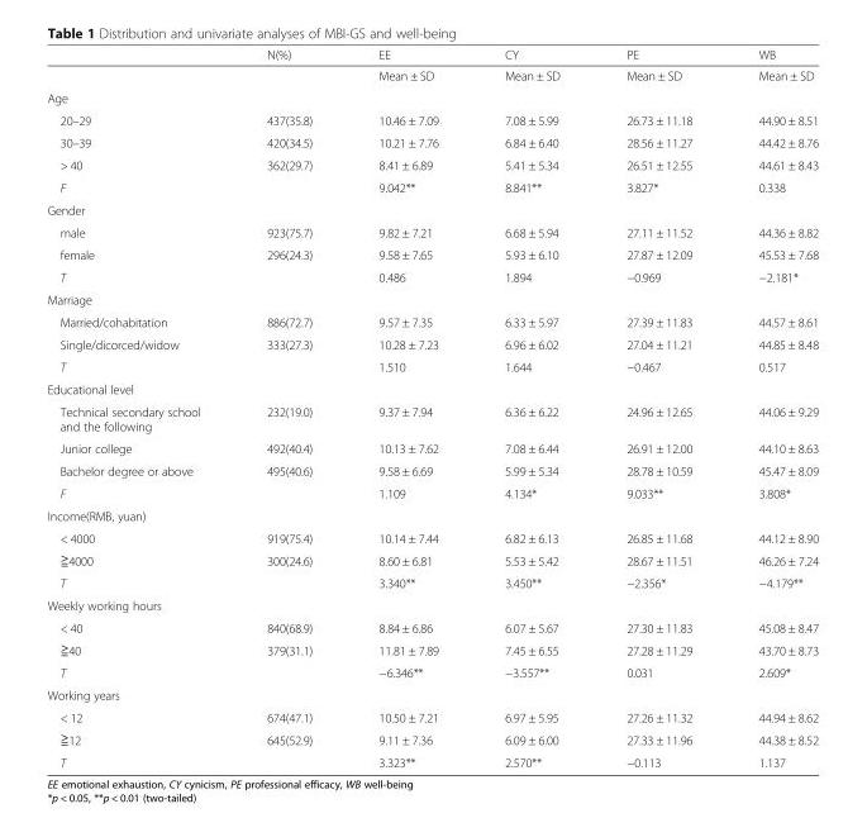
<table><thead><tr><td></td><td>N(%)</td><td>EE</td><td>CY</td><td>PE</td><td>WB</td></tr></thead><tbody><tr><td></td><td></td><td>Mean ± SD</td><td>Mean ± SD</td><td>Mean ± SD</td><td>Mean ± SD</td></tr><tr><td colspan="6">Age</td></tr><tr><td>20–29</td><td>437(35.8)</td><td>10.46 ± 7.09</td><td>7.08 ± 5.99</td><td>26.73 ± 11.18</td><td>44.90 ± 8.51</td></tr><tr><td>30–39</td><td>420(34.5)</td><td>10.21 ± 7.76</td><td>6.84 ± 6.40</td><td>28.56 ± 11.27</td><td>44.42 ± 8.76</td></tr><tr><td>&gt; 40</td><td>362(29.7)</td><td>8.41 ± 6.89</td><td>5.41 ± 5.34</td><td>26.51 ± 12.55</td><td>44.61 ± 8.43</td></tr><tr><td>F</td><td></td><td>9.042**</td><td>8.841**</td><td>3.827*</td><td>0.338</td></tr><tr><td colspan="6">Gender</td></tr><tr><td>male</td><td>923(75.7)</td><td>9.82 ± 7.21</td><td>6.68 ± 5.94</td><td>27.11 ± 11.52</td><td>44.36 ± 8.82</td></tr><tr><td>female</td><td>296(24.3)</td><td>9.58 ± 7.65</td><td>5.93 ± 6.10</td><td>27.87 ± 12.09</td><td>45.53 ± 7.68</td></tr><tr><td>T</td><td></td><td>0.486</td><td>1.894</td><td>−0.969</td><td>−2.181*</td></tr><tr><td colspan="6">Marriage</td></tr><tr><td>Married/cohabitation</td><td>886(72.7)</td><td>9.57 ± 7.35</td><td>6.33 ± 5.97</td><td>27.39 ± 11.83</td><td>44.57 ± 8.61</td></tr><tr><td>Single/dicorced/widow</td><td>333(27.3)</td><td>10.28 ± 7.23</td><td>6.96 ± 6.02</td><td>27.04 ± 11.21</td><td>44.85 ± 8.48</td></tr><tr><td>T</td><td></td><td>1.510</td><td>1.644</td><td>−0.467</td><td>0.517</td></tr><tr><td colspan="6">Educational level</td></tr><tr><td>Technical secondary school and the following</td><td>232(19.0)</td><td>9.37 ± 7.94</td><td>6.36 ± 6.22</td><td>24.96 ± 12.65</td><td>44.06 ± 9.29</td></tr><tr><td>Junior college</td><td>492(40.4)</td><td>10.13 ± 7.62</td><td>7.08 ± 6.44</td><td>26.91 ± 12.00</td><td>44.10 ± 8.63</td></tr><tr><td>Bachelor degree or above</td><td>495(40.6)</td><td>9.58 ± 6.69</td><td>5.99 ± 5.34</td><td>28.78 ± 10.59</td><td>45.47 ± 8.09</td></tr><tr><td>F</td><td></td><td>1.109</td><td>4.134*</td><td>9.033**</td><td>3.808*</td></tr><tr><td colspan="6">Income(RMB, yuan)</td></tr><tr><td>&lt; 4000</td><td>919(75.4)</td><td>10.14 ± 7.44</td><td>6.82 ± 6.13</td><td>26.85 ± 11.68</td><td>44.12 ± 8.90</td></tr><tr><td>≧4000</td><td>300(24.6)</td><td>8.60 ± 6.81</td><td>5.53 ± 5.42</td><td>28.67 ± 11.51</td><td>46.26 ± 7.24</td></tr><tr><td>T</td><td></td><td>3.340**</td><td>3.450**</td><td>−2.356*</td><td>−4.179**</td></tr><tr><td colspan="6">Weekly working hours</td></tr><tr><td>&lt; 40</td><td>840(68.9)</td><td>8.84 ± 6.86</td><td>6.07 ± 5.67</td><td>27.30 ± 11.83</td><td>45.08 ± 8.47</td></tr><tr><td>≧40</td><td>379(31.1)</td><td>11.81 ± 7.89</td><td>7.45 ± 6.55</td><td>27.28 ± 11.29</td><td>43.70 ± 8.73</td></tr><tr><td>T</td><td></td><td>−6.346**</td><td>−3.557**</td><td>0.031</td><td>2.609*</td></tr><tr><td colspan="6">Working years</td></tr><tr><td>&lt; 12</td><td>674(47.1)</td><td>10.50 ± 7.21</td><td>6.97 ± 5.95</td><td>27.26 ± 11.32</td><td>44.94 ± 8.62</td></tr><tr><td>≧12</td><td>645(52.9)</td><td>9.11 ± 7.36</td><td>6.09 ± 6.00</td><td>27.33 ± 11.96</td><td>44.38 ± 8.52</td></tr><tr><td>T</td><td></td><td>3.323**</td><td>2.570**</td><td>−0.113</td><td>1.137</td></tr></tbody></table>